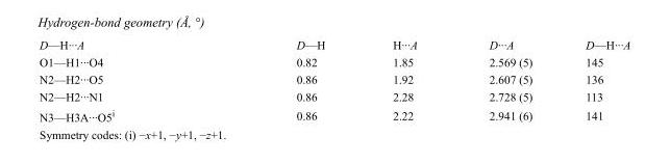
<table><tbody><tr><td>D—H···A</td><td>D—H</td><td>H···A</td><td>D···A</td><td>D—H···A</td></tr><tr><td>O1—H1···O4</td><td>0.82</td><td>1.85</td><td>2.569 (5)</td><td>145</td></tr><tr><td>N2—H2···O5</td><td>0.86</td><td>1.92</td><td>2.607 (5)</td><td>136</td></tr><tr><td>N2—H2···N1</td><td>0.86</td><td>2.28</td><td>2.728 (5)</td><td>113</td></tr><tr><td>N3—H3A···O5<sup>i</sup></td><td>0.86</td><td>2.22</td><td>2.941 (6)</td><td>141</td></tr></tbody></table>